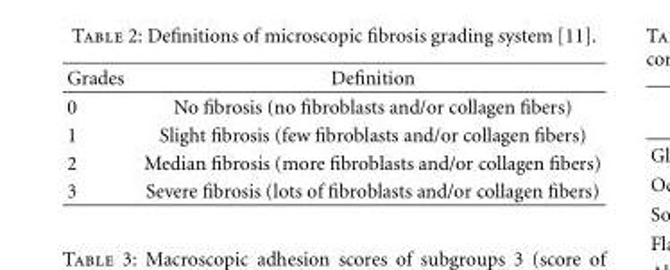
<table><thead><tr><td>Grades</td><td>Definition</td></tr></thead><tbody><tr><td>0</td><td>No fibrosis (no fibroblasts and/or collagen fibers)</td></tr><tr><td>1</td><td>Slight fibrosis (few fibroblasts and/or collagen fibers)</td></tr><tr><td>2</td><td>Median fibrosis (more fibroblasts and/or collagen fibers)</td></tr><tr><td>3</td><td>Severe fibrosis (lots of fibroblasts and/or collagen fibers)</td></tr></tbody></table>